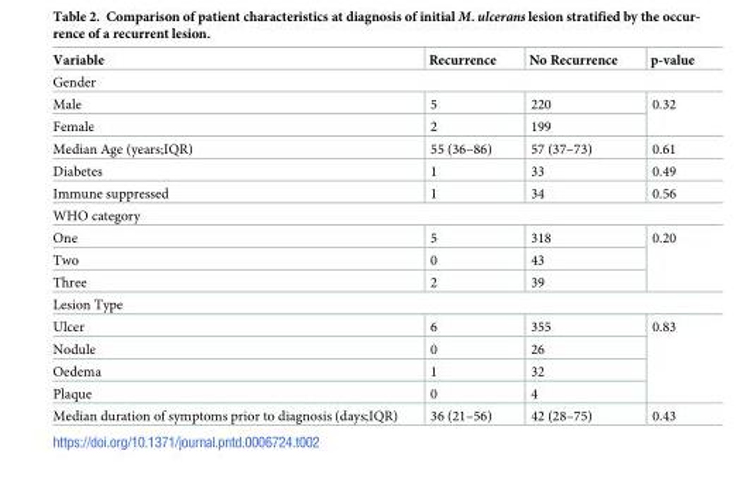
<table><thead><tr><td>Variable</td><td>Recurrence</td><td>No Recurrence</td><td>p-value</td></tr></thead><tbody><tr><td colspan="4">Gender</td></tr><tr><td>Male</td><td>5</td><td>220</td><td rowspan="2">0.32</td></tr><tr><td>Female</td><td>2</td><td>199</td></tr><tr><td>Median Age (years;IQR)</td><td>55 (36–86)</td><td>57 (37–73)</td><td>0.61</td></tr><tr><td>Diabetes</td><td>1</td><td>33</td><td>0.49</td></tr><tr><td>Immune suppressed</td><td>1</td><td>34</td><td>0.56</td></tr><tr><td colspan="4">WHO category</td></tr><tr><td>One</td><td>5</td><td>318</td><td rowspan="3">0.20</td></tr><tr><td>Two</td><td>0</td><td>43</td></tr><tr><td>Three</td><td>2</td><td>39</td></tr><tr><td colspan="4">Lesion Type</td></tr><tr><td>Ulcer</td><td>6</td><td>355</td><td rowspan="4">0.83</td></tr><tr><td>Nodule</td><td>0</td><td>26</td></tr><tr><td>Oedema</td><td>1</td><td>32</td></tr><tr><td>Plaque</td><td>0</td><td>4</td></tr><tr><td>Median duration of symptoms prior to diagnosis (days;IQR)</td><td>36 (21–56)</td><td>42 (28–75)</td><td>0.43</td></tr></tbody></table>